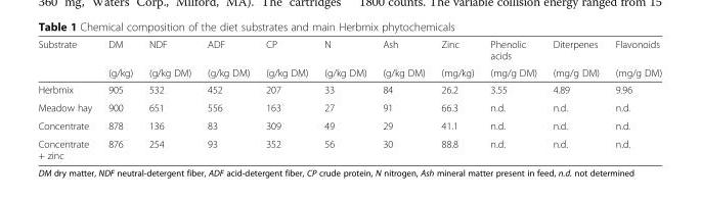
<table><thead><tr><td rowspan="2">Substrate</td><td rowspan="2">DM (g/kg)</td><td rowspan="2">NDF (g/kg DM)</td><td rowspan="2">ADF (g/kg DM)</td><td rowspan="2">CP (g/kg DM)</td><td rowspan="2">N (g/kg DM)</td><td rowspan="2">Ash (g/kg DM)</td><td rowspan="2">Zinc (mg/kg)</td><td rowspan="2">Phenolic acids (mg/g DM)</td><td rowspan="2">Diterpenes (mg/g DM)</td><td rowspan="2">Flavonoids (mg/g DM)</td></tr><tr></tr></thead><tbody><tr><td>Herbmix</td><td>905</td><td>532</td><td>452</td><td>207</td><td>33</td><td>84</td><td>26.2</td><td>3.55</td><td>4.89</td><td>9.96</td></tr><tr><td>Meadow hay</td><td>900</td><td>651</td><td>556</td><td>163</td><td>27</td><td>91</td><td>66.3</td><td>n.d.</td><td>n.d.</td><td>n.d.</td></tr><tr><td>Concentrate</td><td>878</td><td>136</td><td>83</td><td>309</td><td>49</td><td>29</td><td>41.1</td><td>n.d.</td><td>n.d.</td><td>n.d.</td></tr><tr><td>Concentrate + zinc</td><td>876</td><td>254</td><td>93</td><td>352</td><td>56</td><td>30</td><td>88.8</td><td>n.d.</td><td>n.d.</td><td>n.d.</td></tr></tbody></table>